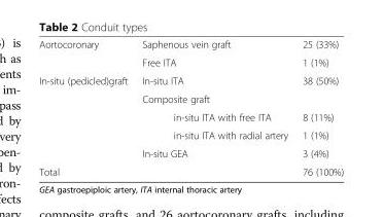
<table><tbody><tr><td rowspan="2">Aortocoronary</td><td>Saphenous vein graft</td><td>25 (33%)</td></tr><tr><td>Free ITA</td><td>1 (1%)</td></tr><tr><td rowspan="5">In-situ (pedicled)graft</td><td>In-situ ITA</td><td>38 (50%)</td></tr><tr><td>Composite graft</td><td></td></tr><tr><td>in-situ ITA with free ITA</td><td>8 (11%)</td></tr><tr><td>in-situ ITA with radial artery</td><td>1 (1%)</td></tr><tr><td>In-situ GEA</td><td>3 (4%)</td></tr><tr><td colspan="2">Total</td><td>76 (100%)</td></tr></tbody></table>